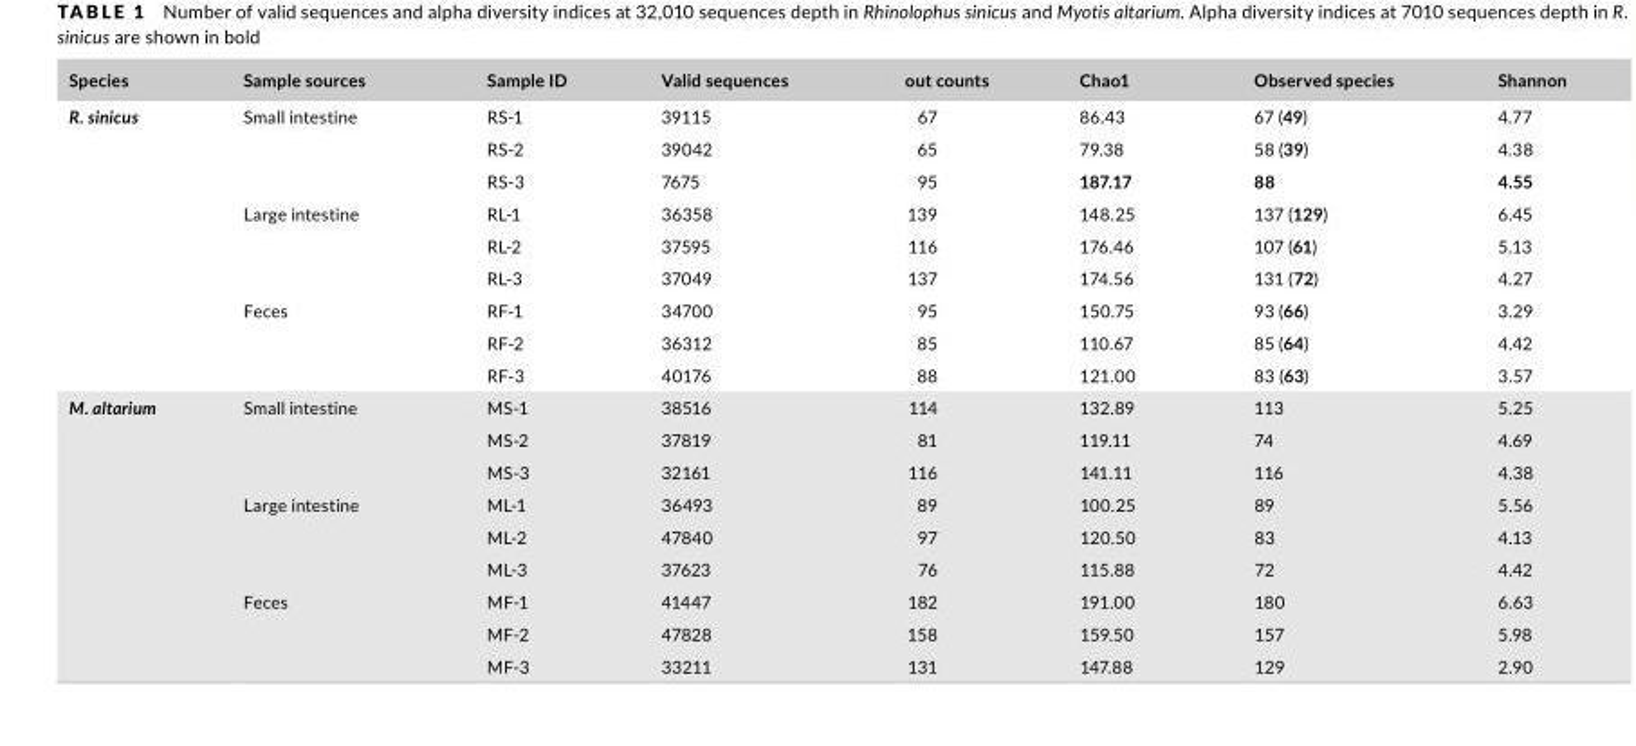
<table><thead><tr><td>Species</td><td>Sample sources</td><td>Sample ID</td><td>Valid sequences</td><td>out counts</td><td>Chao1</td><td>Observed species</td><td>Shannon</td></tr></thead><tbody><tr><td rowspan="9">R. sinicus</td><td rowspan="3">Small intestine</td><td>RS- 1</td><td>39115</td><td>67</td><td>86.43</td><td>67 (49)</td><td>4.77</td></tr><tr><td>RS- 2</td><td>39042</td><td>65</td><td>79.38</td><td>58 (39)</td><td>4.38</td></tr><tr><td>RS- 3</td><td>7675</td><td>95</td><td>187.17</td><td>88</td><td>4.55</td></tr><tr><td rowspan="3">Large intestine</td><td>RL- 1</td><td>36358</td><td>139</td><td>148.25</td><td>137 (129)</td><td>6.45</td></tr><tr><td>RL- 2</td><td>37595</td><td>116</td><td>176.46</td><td>107 (61)</td><td>5.13</td></tr><tr><td>RL- 3</td><td>37049</td><td>137</td><td>174.56</td><td>131 (72)</td><td>4.27</td></tr><tr><td rowspan="3">Feces</td><td>RF- 1</td><td>34700</td><td>95</td><td>150.75</td><td>93 (66)</td><td>3.29</td></tr><tr><td>RF- 2</td><td>36312</td><td>85</td><td>110.67</td><td>85 (64)</td><td>4.42</td></tr><tr><td>RF- 3</td><td>40176</td><td>88</td><td>121.00</td><td>83 (63)</td><td>3.57</td></tr><tr><td rowspan="9">M. altarium</td><td rowspan="3">Small intestine</td><td>MS- 1</td><td>38516</td><td>114</td><td>132.89</td><td>113</td><td>5.25</td></tr><tr><td>MS- 2</td><td>37819</td><td>81</td><td>119.11</td><td>74</td><td>4.69</td></tr><tr><td>MS- 3</td><td>32161</td><td>116</td><td>141.11</td><td>116</td><td>4.38</td></tr><tr><td rowspan="3">Large intestine</td><td>ML- 1</td><td>36493</td><td>89</td><td>100.25</td><td>89</td><td>5.56</td></tr><tr><td>ML- 2</td><td>47840</td><td>97</td><td>120.50</td><td>83</td><td>4.13</td></tr><tr><td>ML- 3</td><td>37623</td><td>76</td><td>115.88</td><td>72</td><td>4.42</td></tr><tr><td rowspan="3">Feces</td><td>MF- 1</td><td>41447</td><td>182</td><td>191.00</td><td>180</td><td>6.63</td></tr><tr><td>MF- 2</td><td>47828</td><td>158</td><td>159.50</td><td>157</td><td>5.98</td></tr><tr><td>MF- 3</td><td>33211</td><td>131</td><td>147.88</td><td>129</td><td>2.90</td></tr></tbody></table>